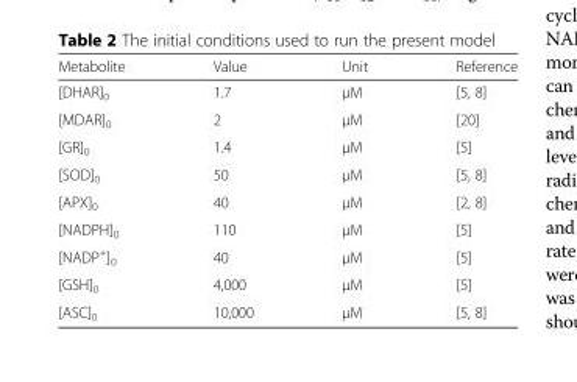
<table><thead><tr><td>Metabolite</td><td>Value</td><td>Unit</td><td>Reference</td></tr></thead><tbody><tr><td>[DHAR]<sub>0</sub></td><td>1.7</td><td>μM</td><td>[5, 8]</td></tr><tr><td>[MDAR]<sub>0</sub></td><td>2</td><td>μM</td><td>[20]</td></tr><tr><td>[GR]<sub>0</sub></td><td>1.4</td><td>μM</td><td>[5]</td></tr><tr><td>[SOD]<sub>0</sub></td><td>50</td><td>μM</td><td>[5, 8]</td></tr><tr><td>[APX]<sub>0</sub></td><td>40</td><td>μM</td><td>[2, 8]</td></tr><tr><td>[NADPH]<sub>0</sub></td><td>110</td><td>μM</td><td>[5]</td></tr><tr><td>[NADP<sup>+</sup>]<sub>0</sub></td><td>40</td><td>μM</td><td>[5]</td></tr><tr><td>[GSH]<sub>0</sub></td><td>4,000</td><td>μM</td><td>[5]</td></tr><tr><td>[ASC]<sub>0</sub></td><td>10,000</td><td>μM</td><td>[5, 8]</td></tr></tbody></table>